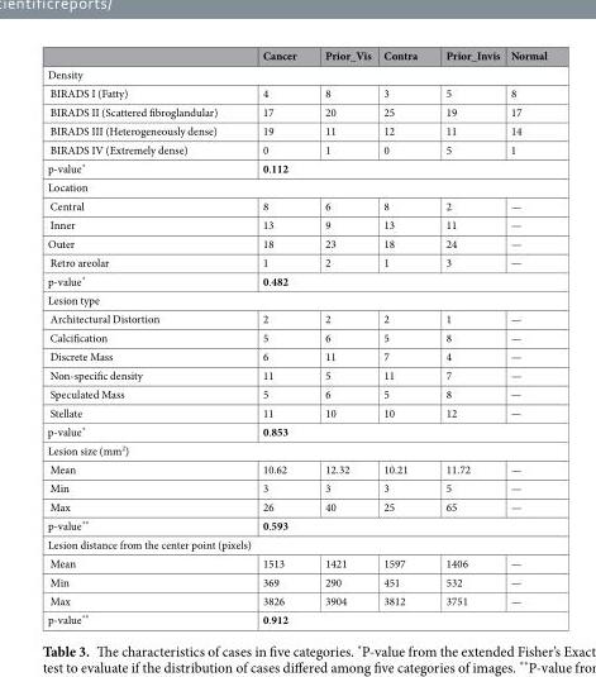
<table><thead><tr><td></td><td>Cancer</td><td>Prior_Vis</td><td>Contra</td><td>Prior_Invis</td><td>Normal</td></tr></thead><tbody><tr><td colspan="6">Density</td></tr><tr><td>BIRADS I (Fatty)</td><td>4</td><td>8</td><td>3</td><td>5</td><td>8</td></tr><tr><td>BIRADS II (Scattered fibroglandular)</td><td>17</td><td>20</td><td>25</td><td>19</td><td>17</td></tr><tr><td>BIRADS III (Heterogeneously dense)</td><td>19</td><td>11</td><td>12</td><td>11</td><td>14</td></tr><tr><td>BIRADS IV (Extremely dense)</td><td>0</td><td>1</td><td>0</td><td>5</td><td>1</td></tr><tr><td>p-value*</td><td colspan="5">0.112</td></tr><tr><td colspan="6">Location</td></tr><tr><td>Central</td><td>8</td><td>6</td><td>8</td><td>2</td><td>—</td></tr><tr><td>Inner</td><td>13</td><td>9</td><td>13</td><td>11</td><td>—</td></tr><tr><td>Outer</td><td>18</td><td>23</td><td>18</td><td>24</td><td>—</td></tr><tr><td>Retro areolar</td><td>1</td><td>2</td><td>1</td><td>3</td><td>—</td></tr><tr><td>p-value*</td><td colspan="5">0.482</td></tr><tr><td colspan="6">Lesion type</td></tr><tr><td>Architectural Distortion</td><td>2</td><td>2</td><td>2</td><td>1</td><td>—</td></tr><tr><td>Calcification</td><td>5</td><td>6</td><td>5</td><td>8</td><td>—</td></tr><tr><td>Discrete Mass</td><td>6</td><td>11</td><td>7</td><td>4</td><td>—</td></tr><tr><td>Non-specific density</td><td>11</td><td>5</td><td>11</td><td>7</td><td>—</td></tr><tr><td>Speculated Mass</td><td>5</td><td>6</td><td>5</td><td>8</td><td>—</td></tr><tr><td>Stellate</td><td>11</td><td>10</td><td>10</td><td>12</td><td>—</td></tr><tr><td>p-value*</td><td colspan="5">0.853</td></tr><tr><td colspan="6">Lesion size (mm<sup>2</sup>)</td></tr><tr><td>Mean</td><td>10.62</td><td>12.32</td><td>10.21</td><td>11.72</td><td>—</td></tr><tr><td>Min</td><td>3</td><td>3</td><td>3</td><td>5</td><td>—</td></tr><tr><td>Max</td><td>26</td><td>40</td><td>25</td><td>65</td><td>—</td></tr><tr><td>p-value**</td><td colspan="5">0.593</td></tr><tr><td colspan="6">Lesion distance from the center point (pixels)</td></tr><tr><td>Mean</td><td>1513</td><td>1421</td><td>1597</td><td>1406</td><td>—</td></tr><tr><td>Min</td><td>369</td><td>290</td><td>451</td><td>532</td><td>—</td></tr><tr><td>Max</td><td>3826</td><td>3904</td><td>3812</td><td>3751</td><td>—</td></tr><tr><td>p-value**</td><td colspan="5">0.912</td></tr></tbody></table>